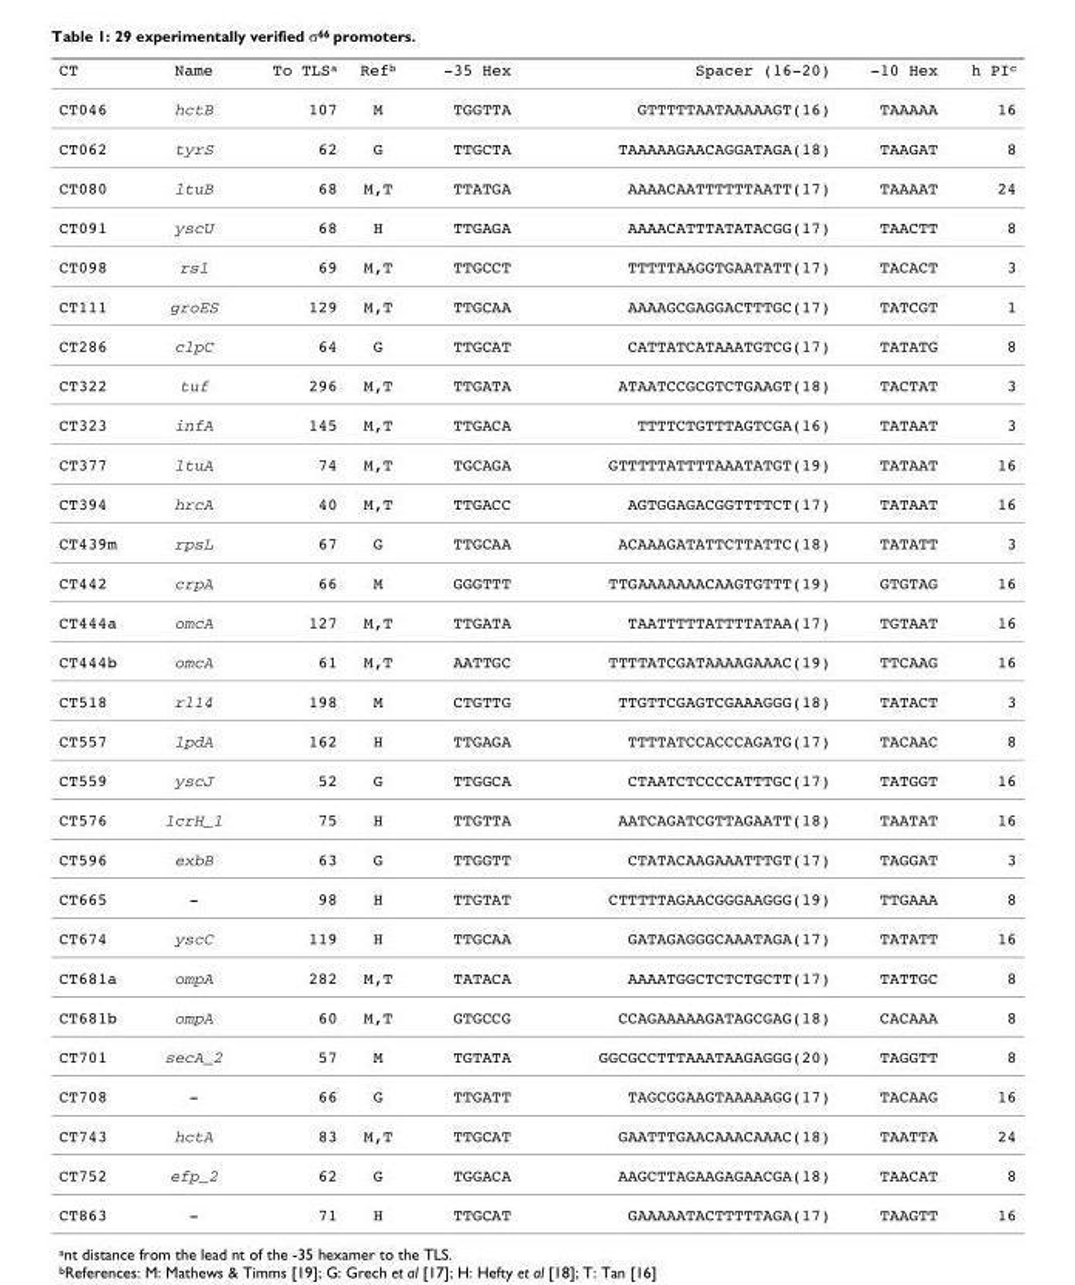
<table><thead><tr><td>CT</td><td>Name</td><td>To TLS<sup>a</sup></td><td>Ref<sup>b</sup></td><td>-35 Hex</td><td>Spacer (16-20)</td><td>-10 Hex</td><td>h PI<sup>c</sup></td></tr></thead><tbody><tr><td>CT046</td><td>hctB</td><td>107</td><td>M</td><td>TGGTTA</td><td>GTTTTTAATAAAAAGT(16)</td><td>TAAAAA</td><td>16</td></tr><tr><td>CT062</td><td>tyrS</td><td>62</td><td>G</td><td>TTGCTA</td><td>TAAAAAGAACAGGATAGA(18)</td><td>TAAGAT</td><td>8</td></tr><tr><td>CT080</td><td>ltuB</td><td>68</td><td>M,T</td><td>TTATGA</td><td>AAAACAATTTTTTAATT(17)</td><td>TAAAAT</td><td>24</td></tr><tr><td>CT091</td><td>yscU</td><td>68</td><td>H</td><td>TTGAGA</td><td>AAAACATTTATATACGG(17)</td><td>TAACTT</td><td>8</td></tr><tr><td>CT098</td><td>rs1</td><td>69</td><td>M,T</td><td>TTGCCT</td><td>TTTTTAAGGTGAATATT(17)</td><td>TACACT</td><td>3</td></tr><tr><td>CT111</td><td>groES</td><td>129</td><td>M,T</td><td>TTGCAA</td><td>AAAAGCGAGGACTTTGC(17)</td><td>TATCGT</td><td>1</td></tr><tr><td>CT286</td><td>clpC</td><td>64</td><td>G</td><td>TTGCAT</td><td>CATTATCATAAATGTCG(17)</td><td>TATATG</td><td>8</td></tr><tr><td>CT322</td><td>tuf</td><td>296</td><td>M,T</td><td>TTGATA</td><td>ATAATCCGCGTCTGAAGT(18)</td><td>TACTAT</td><td>3</td></tr><tr><td>CT323</td><td>infA</td><td>145</td><td>M,T</td><td>TTGACA</td><td>TTTTCTGTTTAGTCGA(16)</td><td>TATAAT</td><td>3</td></tr><tr><td>CT377</td><td>ltuA</td><td>74</td><td>M,T</td><td>TGCAGA</td><td>GTTTTTATTTTAAATATGT(19)</td><td>TATAAT</td><td>16</td></tr><tr><td>CT394</td><td>hrcA</td><td>40</td><td>M,T</td><td>TTGACC</td><td>AGTGGAGACGGTTTTCT(17)</td><td>TATAAT</td><td>16</td></tr><tr><td>CT439m</td><td>rpsL</td><td>67</td><td>G</td><td>TTGCAA</td><td>ACAAAGATATTCTTATTC(18)</td><td>TATATT</td><td>3</td></tr><tr><td>CT442</td><td>crpA</td><td>66</td><td>M</td><td>GGGTTT</td><td>TTGAAAAAAACAAGTGTTT(19)</td><td>GTGTAG</td><td>16</td></tr><tr><td>CT444a</td><td>omcA</td><td>127</td><td>M,T</td><td>TTGATA</td><td>TAATTTTTATTTTATAA(17)</td><td>TGTAAT</td><td>16</td></tr><tr><td>CT444b</td><td>omcA</td><td>61</td><td>M,T</td><td>AATTGC</td><td>TTTTATCGATAAAAGAAAC(19)</td><td>TTCAAG</td><td>16</td></tr><tr><td>CT518</td><td>rl14</td><td>198</td><td>M</td><td>CTGTTG</td><td>TTGTTCGAGTCGAAAGGG(18)</td><td>TATACT</td><td>3</td></tr><tr><td>CT557</td><td>lpdA</td><td>162</td><td>H</td><td>TTGAGA</td><td>TTTTATCCACCCAGATG(17)</td><td>TACAAC</td><td>8</td></tr><tr><td>CT559</td><td>yscJ</td><td>52</td><td>G</td><td>TTGGCA</td><td>CTAATCTCCCCATTTGC(17)</td><td>TATGGT</td><td>16</td></tr><tr><td>CT576</td><td>lcrH_1</td><td>75</td><td>H</td><td>TTGTTA</td><td>AATCAGATCGTTAGAATT(18)</td><td>TAATAT</td><td>16</td></tr><tr><td>CT596</td><td>exbB</td><td>63</td><td>G</td><td>TTGGTT</td><td>CTATACAAGAAATTTGT(17)</td><td>TAGGAT</td><td>3</td></tr><tr><td>CT665</td><td>-</td><td>98</td><td>H</td><td>TTGTAT</td><td>CTTTTTAGAACGGGAAGGG(19)</td><td>TTGAAA</td><td>8</td></tr><tr><td>CT674</td><td>yscC</td><td>119</td><td>H</td><td>TTGCAA</td><td>GATAGAGGGCAAATAGA(17)</td><td>TATATT</td><td>16</td></tr><tr><td>CT681a</td><td>ompA</td><td>282</td><td>M,T</td><td>TATACA</td><td>AAAATGGCTCTCTGCTT(17)</td><td>TATTGC</td><td>8</td></tr><tr><td>CT681b</td><td>ompA</td><td>60</td><td>M,T</td><td>GTGCCG</td><td>CCAGAAAAAGATAGCGAG(18)</td><td>CACAAA</td><td>8</td></tr><tr><td>CT701</td><td>secA_2</td><td>57</td><td>M</td><td>TGTATA</td><td>GGCGCCTTTAAATAAGAGGG(20)</td><td>TAGGTT</td><td>8</td></tr><tr><td>CT708</td><td>-</td><td>66</td><td>G</td><td>TTGATT</td><td>TAGCGGAAGTAAAAAGG(17)</td><td>TACAAG</td><td>16</td></tr><tr><td>CT743</td><td>hctA</td><td>83</td><td>M,T</td><td>TTGCAT</td><td>GAATTTGAACAAACAAAC(18)</td><td>TAATTA</td><td>24</td></tr><tr><td>CT752</td><td>efp_2</td><td>62</td><td>G</td><td>TGGACA</td><td>AAGCTTAGAAGAGAACGA(18)</td><td>TAACAT</td><td>8</td></tr><tr><td>CT863</td><td>-</td><td>71</td><td>H</td><td>TTGCAT</td><td>GAAAAATACTTTTTAGA(17)</td><td>TAAGTT</td><td>16</td></tr></tbody></table>